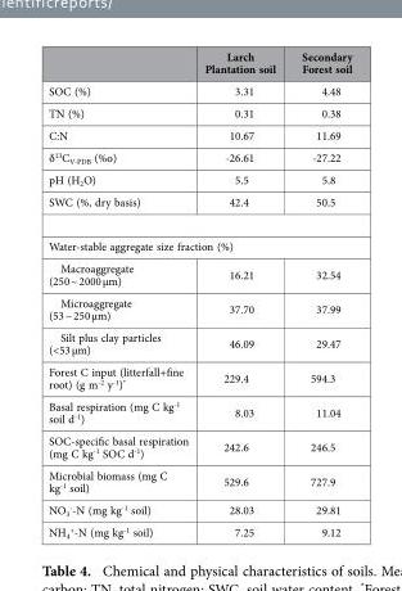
<table><thead><tr><td></td><td>Larch Plantation soil</td><td>Secondary Forest soil</td></tr></thead><tbody><tr><td>SOC (%)</td><td>3.31</td><td>4.48</td></tr><tr><td>TN (%)</td><td>0.31</td><td>0.38</td></tr><tr><td>C:N</td><td>10.67</td><td>11.69</td></tr><tr><td>δ<sup>13</sup>C<sub>V-PDB</sub> (%o)</td><td>-26.61</td><td>-27.22</td></tr><tr><td>pH (H<sub>2</sub>O)</td><td>5.5</td><td>5.8</td></tr><tr><td>SWC (%, dry basis)</td><td>42.4</td><td>50.5</td></tr><tr><td colspan="3">Water-stable aggregate size fraction (%)</td></tr><tr><td>Macroaggregate (250 ~ 2000 μm)</td><td>16.21</td><td>32.54</td></tr><tr><td>Microaggregate (53 ~ 250 μm)</td><td>37.70</td><td>37.99</td></tr><tr><td>Silt plus clay particles (&lt;53 μm)</td><td>46.09</td><td>29.47</td></tr><tr><td>Forest C input (litterfall+fine root) (g m<sup>-2</sup> y<sup>-1</sup>)*</td><td>229.4</td><td>594.3</td></tr><tr><td>Basal respiration (mg C kg<sup>-1</sup> soil d<sup>-1</sup>)</td><td>8.03</td><td>11.04</td></tr><tr><td>SOC-specific basal respiration (mg C kg<sup>-1</sup> SOC d<sup>-1</sup>)</td><td>242.6</td><td>246.5</td></tr><tr><td>Microbial biomass (mg C kg<sup>-1</sup> soil)</td><td>529.6</td><td>727.9</td></tr><tr><td>NO<sub>3</sub> <sup>-</sup>-N (mg kg<sup>-1</sup> soil)</td><td>28.03</td><td>29.81</td></tr><tr><td>NH<sub>4</sub> <sup>+</sup>-N (mg kg<sup>-1</sup> soil)</td><td>7.25</td><td>9.12</td></tr></tbody></table>